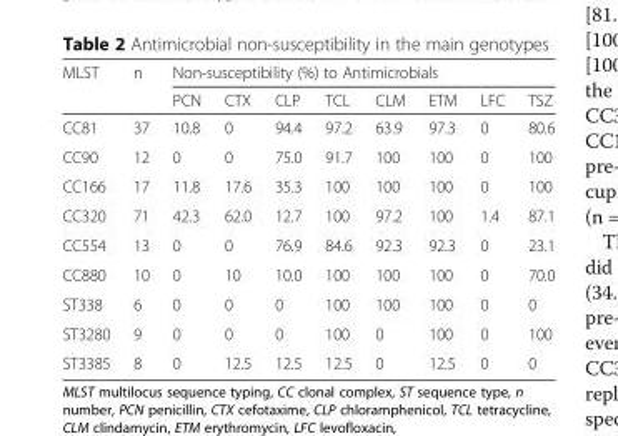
<table><thead><tr><td rowspan="2">MLST</td><td rowspan="2">n</td><td colspan="8">Non-susceptibility (%) to Antimicrobials</td></tr><tr><td>PCN</td><td>CTX</td><td>CLP</td><td>TCL</td><td>CLM</td><td>ETM</td><td>LFC</td><td>TSZ</td></tr></thead><tbody><tr><td>CC81</td><td>37</td><td>10.8</td><td>0</td><td>94.4</td><td>97.2</td><td>63.9</td><td>97.3</td><td>0</td><td>80.6</td></tr><tr><td>CC90</td><td>12</td><td>0</td><td>0</td><td>75.0</td><td>91.7</td><td>100</td><td>100</td><td>0</td><td>100</td></tr><tr><td>CC166</td><td>17</td><td>11.8</td><td>17.6</td><td>35.3</td><td>100</td><td>100</td><td>100</td><td>0</td><td>100</td></tr><tr><td>CC320</td><td>71</td><td>42.3</td><td>62.0</td><td>12.7</td><td>100</td><td>97.2</td><td>100</td><td>1.4</td><td>87.1</td></tr><tr><td>CC554</td><td>13</td><td>0</td><td>0</td><td>76.9</td><td>84.6</td><td>92.3</td><td>92.3</td><td>0</td><td>23.1</td></tr><tr><td>CC880</td><td>10</td><td>0</td><td>10</td><td>10.0</td><td>100</td><td>100</td><td>100</td><td>0</td><td>70.0</td></tr><tr><td>ST338</td><td>6</td><td>0</td><td>0</td><td>0</td><td>100</td><td>100</td><td>100</td><td>0</td><td>0</td></tr><tr><td>ST3280</td><td>9</td><td>0</td><td>0</td><td>0</td><td>100</td><td>0</td><td>100</td><td>0</td><td>100</td></tr><tr><td>ST3385</td><td>8</td><td>0</td><td>12.5</td><td>12.5</td><td>12.5</td><td>0</td><td>12.5</td><td>0</td><td>0</td></tr></tbody></table>